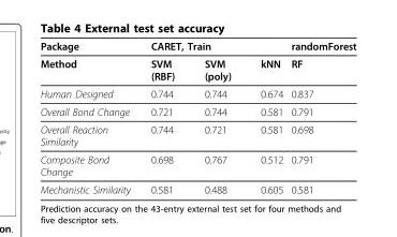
<table><thead><tr><td rowspan="2">Package Method</td><td colspan="3">CARET, Train</td><td rowspan="2">randomForest RF</td></tr><tr><td>SVM (RBF)</td><td>SVM (poly)</td><td>kNN</td></tr></thead><tbody><tr><td>Human Designed</td><td>0.744</td><td>0.744</td><td>0.674</td><td>0.837</td></tr><tr><td>Overall Bond Change</td><td>0.721</td><td>0.744</td><td>0.581</td><td>0.791</td></tr><tr><td>Overall Reaction Similarity</td><td>0.744</td><td>0.721</td><td>0.581</td><td>0.698</td></tr><tr><td>Composite Bond Change</td><td>0.698</td><td>0.767</td><td>0.512</td><td>0.791</td></tr><tr><td>Mechanistic Similarity</td><td>0.581</td><td>0.488</td><td>0.605</td><td>0.581</td></tr></tbody></table>